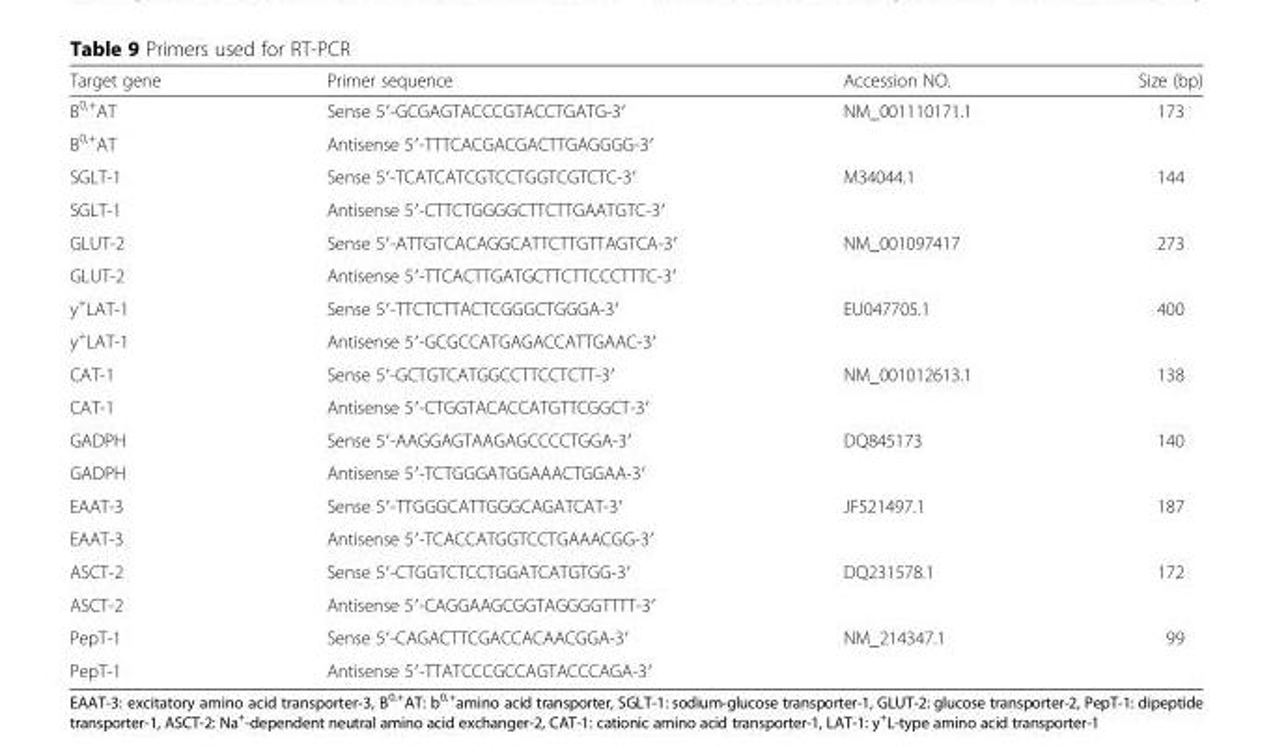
<table><thead><tr><td>Target gene</td><td>Primer sequence</td><td>Accession NO.</td><td>Size (bp)</td></tr></thead><tbody><tr><td>B<sup>0,+</sup>AT</td><td>Sense 5′-GCGAGTACCCGTACCTGATG-3′</td><td>NM_001110171.1</td><td>173</td></tr><tr><td>B<sup>0,+</sup>AT</td><td>Antisense 5′-TTTCACGACGACTTGAGGGG-3′</td><td></td><td></td></tr><tr><td>SGLT-1</td><td>Sense 5′-TCATCATCGTCCTGGTCGTCTC-3′</td><td>M34044.1</td><td>144</td></tr><tr><td>SGLT-1</td><td>Antisense 5′-CTTCTGGGGCTTCTTGAATGTC-3′</td><td></td><td></td></tr><tr><td>GLUT-2</td><td>Sense 5′-ATTGTCACAGGCATTCTTGTTAGTCA-3′</td><td>NM_001097417</td><td>273</td></tr><tr><td>GLUT-2</td><td>Antisense 5′-TTCACTTGATGCTTCTTCCCTTTC-3′</td><td></td><td></td></tr><tr><td>y<sup>+</sup>LAT-1</td><td>Sense 5′-TTCTCTTACTCGGGCTGGGA-3′</td><td>EU047705.1</td><td>400</td></tr><tr><td>y<sup>+</sup>LAT-1</td><td>Antisense 5′-GCGCCATGAGACCATTGAAC-3′</td><td></td><td></td></tr><tr><td>CAT-1</td><td>Sense 5′-GCTGTCATGGCCTTCCTCTT-3′</td><td>NM_001012613.1</td><td>138</td></tr><tr><td>CAT-1</td><td>Antisense 5′-CTGGTACACCATGTTCGGCT-3′</td><td></td><td></td></tr><tr><td>GADPH</td><td>Sense 5′-AAGGAGTAAGAGCCCCTGGA-3′</td><td>DQ845173</td><td>140</td></tr><tr><td>GADPH</td><td>Antisense 5′-TCTGGGATGGAAACTGGAA-3′</td><td></td><td></td></tr><tr><td>EAAT-3</td><td>Sense 5′-TTGGGCATTGGGCAGATCAT-3′</td><td>JF521497.1</td><td>187</td></tr><tr><td>EAAT-3</td><td>Antisense 5′-TCACCATGGTCCTGAAACGG-3′</td><td></td><td></td></tr><tr><td>ASCT-2</td><td>Sense 5′-CTGGTCTCCTGGATCATGTGG-3′</td><td>DQ231578.1</td><td>172</td></tr><tr><td>ASCT-2</td><td>Antisense 5′-CAGGAAGCGGTAGGGGTTTT-3′</td><td></td><td></td></tr><tr><td>PepT-1</td><td>Sense 5′-CAGACTTCGACCACAACGGA-3′</td><td>NM_214347.1</td><td>99</td></tr><tr><td>PepT-1</td><td>Antisense 5′-TTATCCCGCCAGTACCCAGA-3′</td><td></td><td></td></tr></tbody></table>